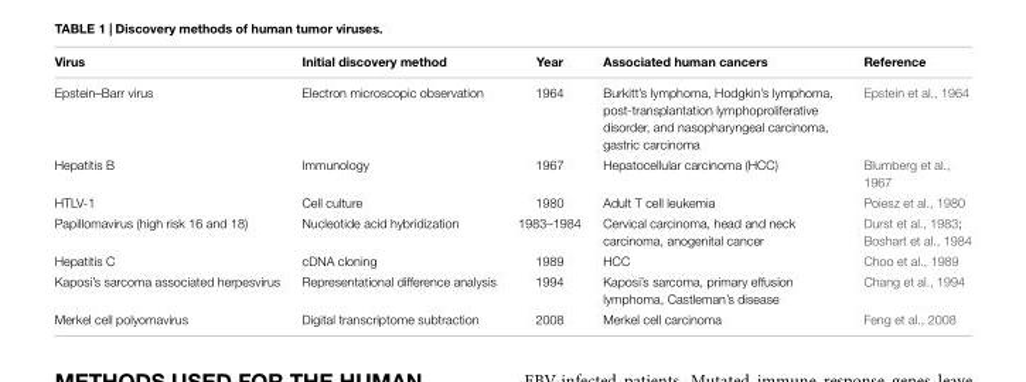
<table><thead><tr><td>Virus</td><td>Initial discovery method</td><td>Year</td><td>Associated human cancers</td><td>Reference</td></tr></thead><tbody><tr><td>Epstein–Barr virus</td><td>Electron microscopic observation</td><td>1964</td><td>Burkitt’s lymphoma, Hodgkin’s lymphoma, post-transplantation lymphoproliferative disorder, and nasopharyngeal carcinoma, gastric carcinoma</td><td>Epstein et al., 1964</td></tr><tr><td>Hepatitis B</td><td>Immunology</td><td>1967</td><td>Hepatocellular carcinoma (HCC)</td><td>Blumberg et al., 1967</td></tr><tr><td>HTLV-1</td><td>Cell culture</td><td>1980</td><td>Adult T cell leukemia</td><td>Poiesz et al., 1980</td></tr><tr><td>Papillomavirus (high risk 16 and 18)</td><td>Nucleotide acid hybridization</td><td>1983–1984</td><td>Cervical carcinoma, head and neck carcinoma, anogenital cancer</td><td>Durst et al., 1983; Boshart et al., 1984</td></tr><tr><td>Hepatitis C</td><td>cDNA cloning</td><td>1989</td><td>HCC</td><td>Choo et al., 1989</td></tr><tr><td>Kaposi’s sarcoma associated herpesvirus</td><td>Representational difference analysis</td><td>1994</td><td>Kaposi’s sarcoma, primary effusion lymphoma, Castleman’s disease</td><td>Chang et al., 1994</td></tr><tr><td>Merkel cell polyomavirus</td><td>Digital transcriptome subtraction</td><td>2008</td><td>Merkel cell carcinoma</td><td>Feng et al., 2008</td></tr></tbody></table>